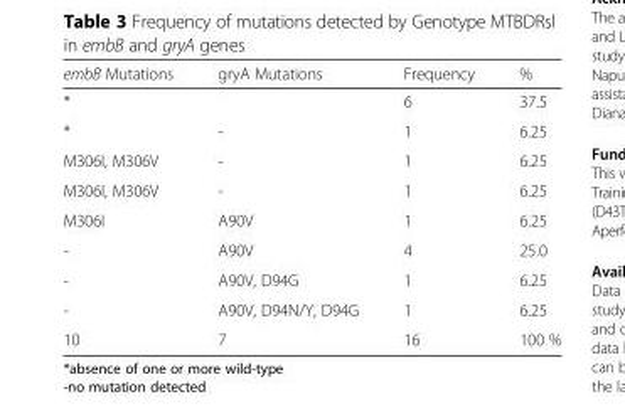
<table><thead><tr><td>embB Mutations</td><td>gryA Mutations</td><td>Frequency</td><td>%</td></tr></thead><tbody><tr><td>*</td><td></td><td>6</td><td>37.5</td></tr><tr><td>*</td><td>-</td><td>1</td><td>6.25</td></tr><tr><td>M306I, M306V</td><td>-</td><td>1</td><td>6.25</td></tr><tr><td>M306I, M306V</td><td>-</td><td>1</td><td>6.25</td></tr><tr><td>M306I</td><td>A90V</td><td>1</td><td>6.25</td></tr><tr><td>-</td><td>A90V</td><td>4</td><td>25.0</td></tr><tr><td>-</td><td>A90V, D94G</td><td>1</td><td>6.25</td></tr><tr><td>-</td><td>A90V, D94N/Y, D94G</td><td>1</td><td>6.25</td></tr><tr><td>10</td><td>7</td><td>16</td><td>100 %</td></tr></tbody></table>